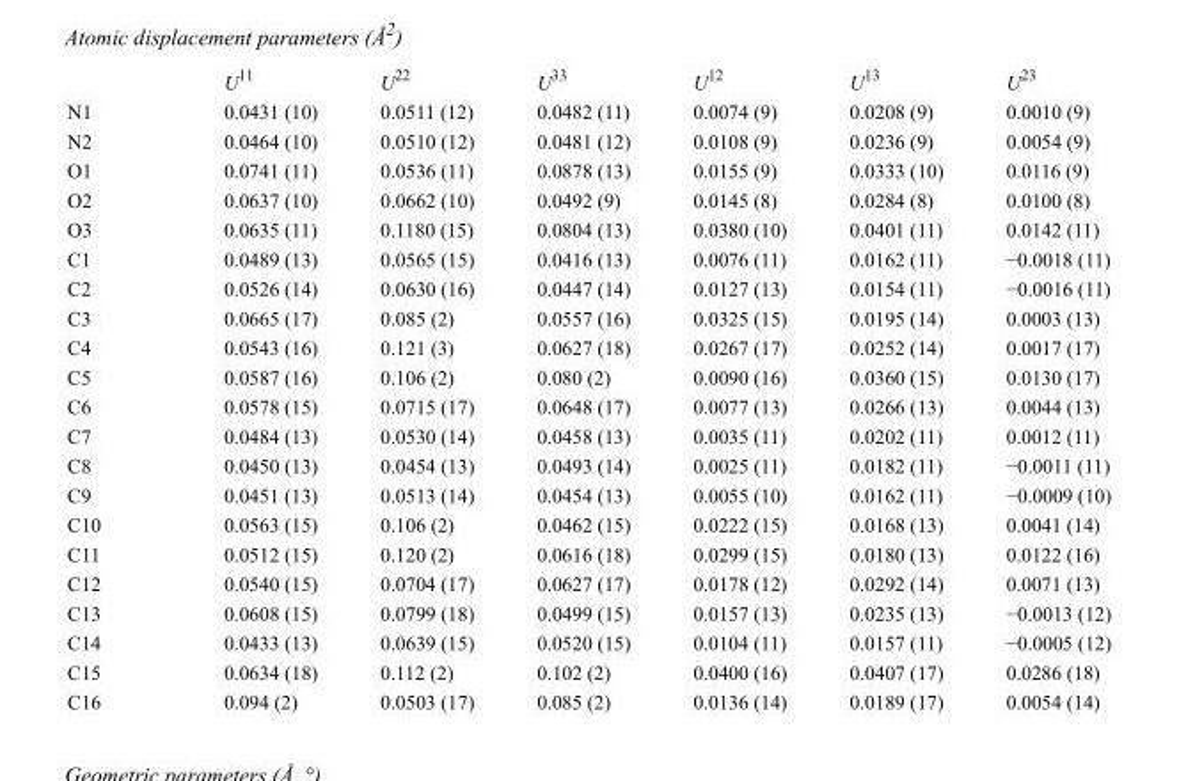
<table><thead><tr><td></td><td>U<sup>11</sup></td><td>U<sup>22</sup></td><td>U<sup>33</sup></td><td>U<sup>12</sup></td><td>U<sup>13</sup></td><td>U<sup>23</sup></td></tr></thead><tbody><tr><td>N1</td><td>0.0431 (10)</td><td>0.0511 (12)</td><td>0.0482 (11)</td><td>0.0074 (9)</td><td>0.0208 (9)</td><td>0.0010 (9)</td></tr><tr><td>N2</td><td>0.0464 (10)</td><td>0.0510 (12)</td><td>0.0481 (12)</td><td>0.0108 (9)</td><td>0.0236 (9)</td><td>0.0054 (9)</td></tr><tr><td>O1</td><td>0.0741 (11)</td><td>0.0536 (11)</td><td>0.0878 (13)</td><td>0.0155 (9)</td><td>0.0333 (10)</td><td>0.0116 (9)</td></tr><tr><td>O2</td><td>0.0637 (10)</td><td>0.0662 (10)</td><td>0.0492 (9)</td><td>0.0145 (8)</td><td>0.0284 (8)</td><td>0.0100 (8)</td></tr><tr><td>O3</td><td>0.0635 (11)</td><td>0.1180 (15)</td><td>0.0804 (13)</td><td>0.0380 (10)</td><td>0.0401 (11)</td><td>0.0142 (11)</td></tr><tr><td>C1</td><td>0.0489 (13)</td><td>0.0565 (15)</td><td>0.0416 (13)</td><td>0.0076 (11)</td><td>0.0162 (11)</td><td>−0.0018 (11)</td></tr><tr><td>C2</td><td>0.0526 (14)</td><td>0.0630 (16)</td><td>0.0447 (14)</td><td>0.0127 (13)</td><td>0.0154 (11)</td><td>−0.0016 (11)</td></tr><tr><td>C3</td><td>0.0665 (17)</td><td>0.085 (2)</td><td>0.0557 (16)</td><td>0.0325 (15)</td><td>0.0195 (14)</td><td>0.0003 (13)</td></tr><tr><td>C4</td><td>0.0543 (16)</td><td>0.121 (3)</td><td>0.0627 (18)</td><td>0.0267 (17)</td><td>0.0252 (14)</td><td>0.0017 (17)</td></tr><tr><td>C5</td><td>0.0587 (16)</td><td>0.106 (2)</td><td>0.080 (2)</td><td>0.0090 (16)</td><td>0.0360 (15)</td><td>0.0130 (17)</td></tr><tr><td>C6</td><td>0.0578 (15)</td><td>0.0715 (17)</td><td>0.0648 (17)</td><td>0.0077 (13)</td><td>0.0266 (13)</td><td>0.0044 (13)</td></tr><tr><td>C7</td><td>0.0484 (13)</td><td>0.0530 (14)</td><td>0.0458 (13)</td><td>0.0035 (11)</td><td>0.0202 (11)</td><td>0.0012 (11)</td></tr><tr><td>C8</td><td>0.0450 (13)</td><td>0.0454 (13)</td><td>0.0493 (14)</td><td>0.0025 (11)</td><td>0.0182 (11)</td><td>−0.0011 (11)</td></tr><tr><td>C9</td><td>0.0451 (13)</td><td>0.0513 (14)</td><td>0.0454 (13)</td><td>0.0055 (10)</td><td>0.0162 (11)</td><td>−0.0009 (10)</td></tr><tr><td>C10</td><td>0.0563 (15)</td><td>0.106 (2)</td><td>0.0462 (15)</td><td>0.0222 (15)</td><td>0.0168 (13)</td><td>0.0041 (14)</td></tr><tr><td>C11</td><td>0.0512 (15)</td><td>0.120 (2)</td><td>0.0616 (18)</td><td>0.0299 (15)</td><td>0.0180 (13)</td><td>0.0122 (16)</td></tr><tr><td>C12</td><td>0.0540 (15)</td><td>0.0704 (17)</td><td>0.0627 (17)</td><td>0.0178 (12)</td><td>0.0292 (14)</td><td>0.0071 (13)</td></tr><tr><td>C13</td><td>0.0608 (15)</td><td>0.0799 (18)</td><td>0.0499 (15)</td><td>0.0157 (13)</td><td>0.0235 (13)</td><td>−0.0013 (12)</td></tr><tr><td>C14</td><td>0.0433 (13)</td><td>0.0639 (15)</td><td>0.0520 (15)</td><td>0.0104 (11)</td><td>0.0157 (11)</td><td>−0.0005 (12)</td></tr><tr><td>C15</td><td>0.0634 (18)</td><td>0.112 (2)</td><td>0.102 (2)</td><td>0.0400 (16)</td><td>0.0407 (17)</td><td>0.0286 (18)</td></tr><tr><td>C16</td><td>0.094 (2)</td><td>0.0503 (17)</td><td>0.085 (2)</td><td>0.0136 (14)</td><td>0.0189 (17)</td><td>0.0054 (14)</td></tr></tbody></table>